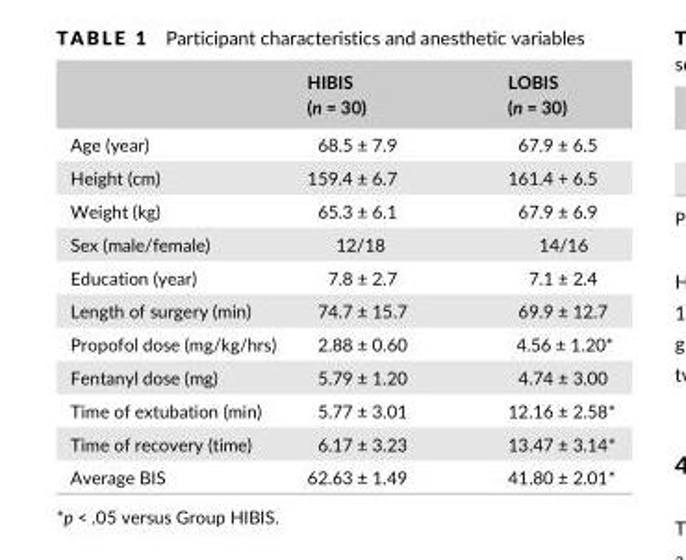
<table><thead><tr><td></td><td>HIBIS (n = 30)</td><td>LOBIS (n = 30)</td></tr></thead><tbody><tr><td>Age (year)</td><td>68.5 ± 7.9</td><td>67.9 ± 6.5</td></tr><tr><td>Height (cm)</td><td>159.4 ± 6.7</td><td>161.4 + 6.5</td></tr><tr><td>Weight (kg)</td><td>65.3 ± 6.1</td><td>67.9 ± 6.9</td></tr><tr><td>Sex (male/female)</td><td>12/18</td><td>14/16</td></tr><tr><td>Education (year)</td><td>7.8 ± 2.7</td><td>7.1 ± 2.4</td></tr><tr><td>Length of surgery (min)</td><td>74.7 ± 15.7</td><td>69.9 ± 12.7</td></tr><tr><td>Propofol dose (mg/kg/hrs)</td><td>2.88 ± 0.60</td><td>4.56 ± 1.20*</td></tr><tr><td>Fentanyl dose (mg)</td><td>5.79 ± 1.20</td><td>4.74 ± 3.00</td></tr><tr><td>Time of extubation (min)</td><td>5.77 ± 3.01</td><td>12.16 ± 2.58*</td></tr><tr><td>Time of recovery (time)</td><td>6.17 ± 3.23</td><td>13.47 ± 3.14*</td></tr><tr><td>Average BIS</td><td>62.63 ± 1.49</td><td>41.80 ± 2.01*</td></tr></tbody></table>